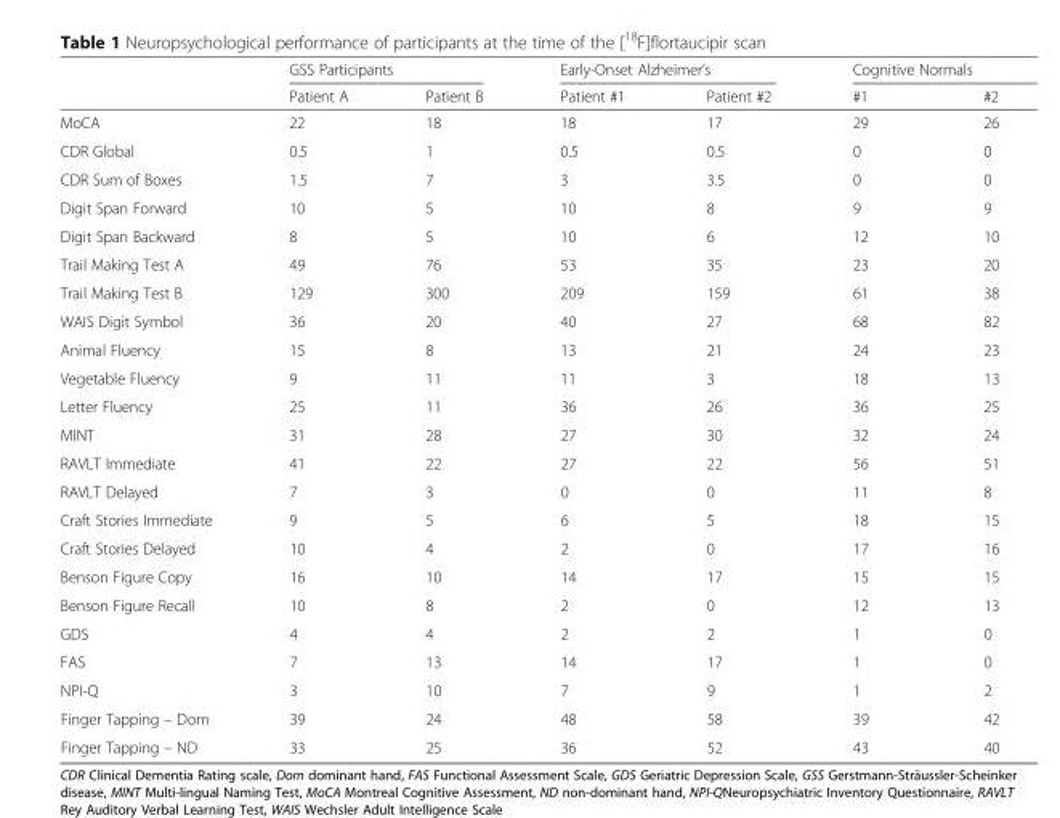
<table><thead><tr><td rowspan="2"></td><td colspan="2">GSS Participants</td><td colspan="2">Early-Onset Alzheimer’s</td><td colspan="2">Cognitive Normals</td></tr><tr><td>Patient A</td><td>Patient B</td><td>Patient #1</td><td>Patient #2</td><td>#1</td><td>#2</td></tr></thead><tbody><tr><td>MoCA</td><td>22</td><td>18</td><td>18</td><td>17</td><td>29</td><td>26</td></tr><tr><td>CDR Global</td><td>0.5</td><td>1</td><td>0.5</td><td>0.5</td><td>0</td><td>0</td></tr><tr><td>CDR Sum of Boxes</td><td>1.5</td><td>7</td><td>3</td><td>3.5</td><td>0</td><td>0</td></tr><tr><td>Digit Span Forward</td><td>10</td><td>5</td><td>10</td><td>8</td><td>9</td><td>9</td></tr><tr><td>Digit Span Backward</td><td>8</td><td>5</td><td>10</td><td>6</td><td>12</td><td>10</td></tr><tr><td>Trail Making Test A</td><td>49</td><td>76</td><td>53</td><td>35</td><td>23</td><td>20</td></tr><tr><td>Trail Making Test B</td><td>129</td><td>300</td><td>209</td><td>159</td><td>61</td><td>38</td></tr><tr><td>WAIS Digit Symbol</td><td>36</td><td>20</td><td>40</td><td>27</td><td>68</td><td>82</td></tr><tr><td>Animal Fluency</td><td>15</td><td>8</td><td>13</td><td>21</td><td>24</td><td>23</td></tr><tr><td>Vegetable Fluency</td><td>9</td><td>11</td><td>11</td><td>3</td><td>18</td><td>13</td></tr><tr><td>Letter Fluency</td><td>25</td><td>11</td><td>36</td><td>26</td><td>36</td><td>25</td></tr><tr><td>MINT</td><td>31</td><td>28</td><td>27</td><td>30</td><td>32</td><td>24</td></tr><tr><td>RAVLT Immediate</td><td>41</td><td>22</td><td>27</td><td>22</td><td>56</td><td>51</td></tr><tr><td>RAVLT Delayed</td><td>7</td><td>3</td><td>0</td><td>0</td><td>11</td><td>8</td></tr><tr><td>Craft Stories Immediate</td><td>9</td><td>5</td><td>6</td><td>5</td><td>18</td><td>15</td></tr><tr><td>Craft Stories Delayed</td><td>10</td><td>4</td><td>2</td><td>0</td><td>17</td><td>16</td></tr><tr><td>Benson Figure Copy</td><td>16</td><td>10</td><td>14</td><td>17</td><td>15</td><td>15</td></tr><tr><td>Benson Figure Recall</td><td>10</td><td>8</td><td>2</td><td>0</td><td>12</td><td>13</td></tr><tr><td>GDS</td><td>4</td><td>4</td><td>2</td><td>2</td><td>1</td><td>0</td></tr><tr><td>FAS</td><td>7</td><td>13</td><td>14</td><td>17</td><td>1</td><td>0</td></tr><tr><td>NPI-Q</td><td>3</td><td>10</td><td>7</td><td>9</td><td>1</td><td>2</td></tr><tr><td>Finger Tapping – Dom</td><td>39</td><td>24</td><td>48</td><td>58</td><td>39</td><td>42</td></tr><tr><td>Finger Tapping – ND</td><td>33</td><td>25</td><td>36</td><td>52</td><td>43</td><td>40</td></tr></tbody></table>